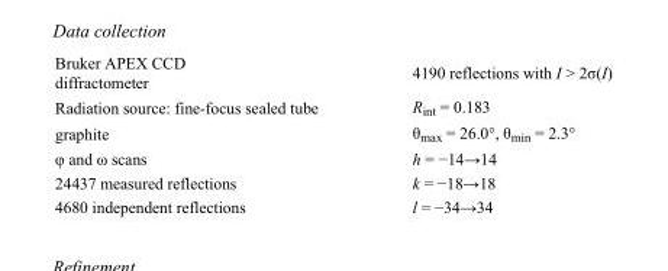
<table><tbody><tr><td>Bruker APEX CCD diffractometer</td><td>4190 reflections with I &gt; 2σ(I)</td></tr><tr><td>Radiation source: fine-focus sealed tube</td><td>R<sub>int</sub> = 0.183</td></tr><tr><td>graphite</td><td>θ<sub>max</sub> = 26.0°, θ<sub>min</sub> = 2.3°</td></tr><tr><td>φ and ω scans</td><td>h = −14→14</td></tr><tr><td>24437 measured reflections</td><td>k = −18→18</td></tr><tr><td>4680 independent reflections</td><td>l = −34→34</td></tr></tbody></table>